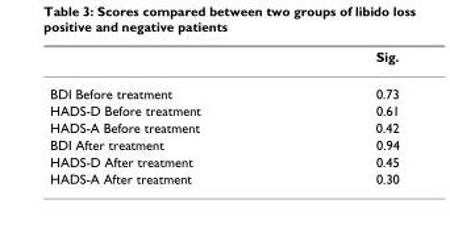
<table><thead><tr><td></td><td>Sig.</td></tr></thead><tbody><tr><td>BDI Before treatment</td><td>0.73</td></tr><tr><td>HADS-D Before treatment</td><td>0.61</td></tr><tr><td>HADS-A Before treatment</td><td>0.42</td></tr><tr><td>BDI After treatment</td><td>0.94</td></tr><tr><td>HADS-D After treatment</td><td>0.45</td></tr><tr><td>HADS-A After treatment</td><td>0.30</td></tr></tbody></table>